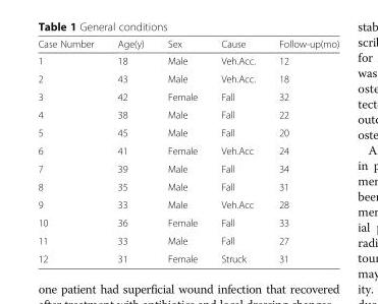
<table><thead><tr><td>Case Number</td><td>Age(y)</td><td>Sex</td><td>Cause</td><td>Follow-up(mo)</td></tr></thead><tbody><tr><td>1</td><td>18</td><td>Male</td><td>Veh.Acc.</td><td>12</td></tr><tr><td>2</td><td>43</td><td>Male</td><td>Veh.Acc.</td><td>18</td></tr><tr><td>3</td><td>42</td><td>Female</td><td>Fall</td><td>32</td></tr><tr><td>4</td><td>38</td><td>Male</td><td>Fall</td><td>22</td></tr><tr><td>5</td><td>45</td><td>Male</td><td>Fall</td><td>20</td></tr><tr><td>6</td><td>41</td><td>Female</td><td>Veh.Acc</td><td>24</td></tr><tr><td>7</td><td>39</td><td>Male</td><td>Fall</td><td>34</td></tr><tr><td>8</td><td>35</td><td>Male</td><td>Fall</td><td>31</td></tr><tr><td>9</td><td>33</td><td>Male</td><td>Veh.Acc</td><td>28</td></tr><tr><td>10</td><td>36</td><td>Female</td><td>Fall</td><td>33</td></tr><tr><td>11</td><td>33</td><td>Male</td><td>Fall</td><td>27</td></tr><tr><td>12</td><td>31</td><td>Female</td><td>Struck</td><td>31</td></tr></tbody></table>